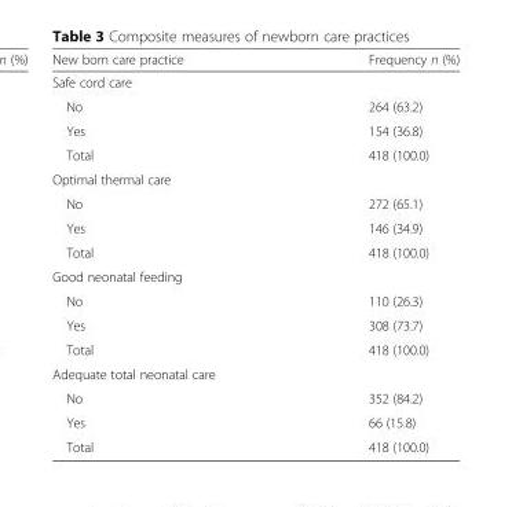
<table><thead><tr><td>New born care practice</td><td>Frequency n (%)</td></tr></thead><tbody><tr><td colspan="2">Safe cord care</td></tr><tr><td>No</td><td>264 (63.2)</td></tr><tr><td>Yes</td><td>154 (36.8)</td></tr><tr><td>Total</td><td>418 (100.0)</td></tr><tr><td colspan="2">Optimal thermal care</td></tr><tr><td>No</td><td>272 (65.1)</td></tr><tr><td>Yes</td><td>146 (34.9)</td></tr><tr><td>Total</td><td>418 (100.0)</td></tr><tr><td colspan="2">Good neonatal feeding</td></tr><tr><td>No</td><td>110 (26.3)</td></tr><tr><td>Yes</td><td>308 (73.7)</td></tr><tr><td>Total</td><td>418 (100.0)</td></tr><tr><td colspan="2">Adequate total neonatal care</td></tr><tr><td>No</td><td>352 (84.2)</td></tr><tr><td>Yes</td><td>66 (15.8)</td></tr><tr><td>Total</td><td>418 (100.0)</td></tr></tbody></table>